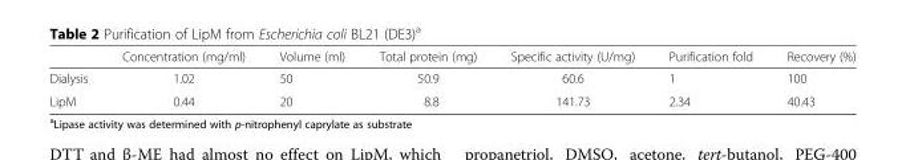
<table><thead><tr><td></td><td>Concentration (mg/ml)</td><td>Volume (ml)</td><td>Total protein (mg)</td><td>Specific activity (U/mg)</td><td>Purification fold</td><td>Recovery (%)</td></tr></thead><tbody><tr><td>Dialysis</td><td>1.02</td><td>50</td><td>50.9</td><td>60.6</td><td>1</td><td>100</td></tr><tr><td>LipM</td><td>0.44</td><td>20</td><td>8.8</td><td>141.73</td><td>2.34</td><td>40.43</td></tr></tbody></table>